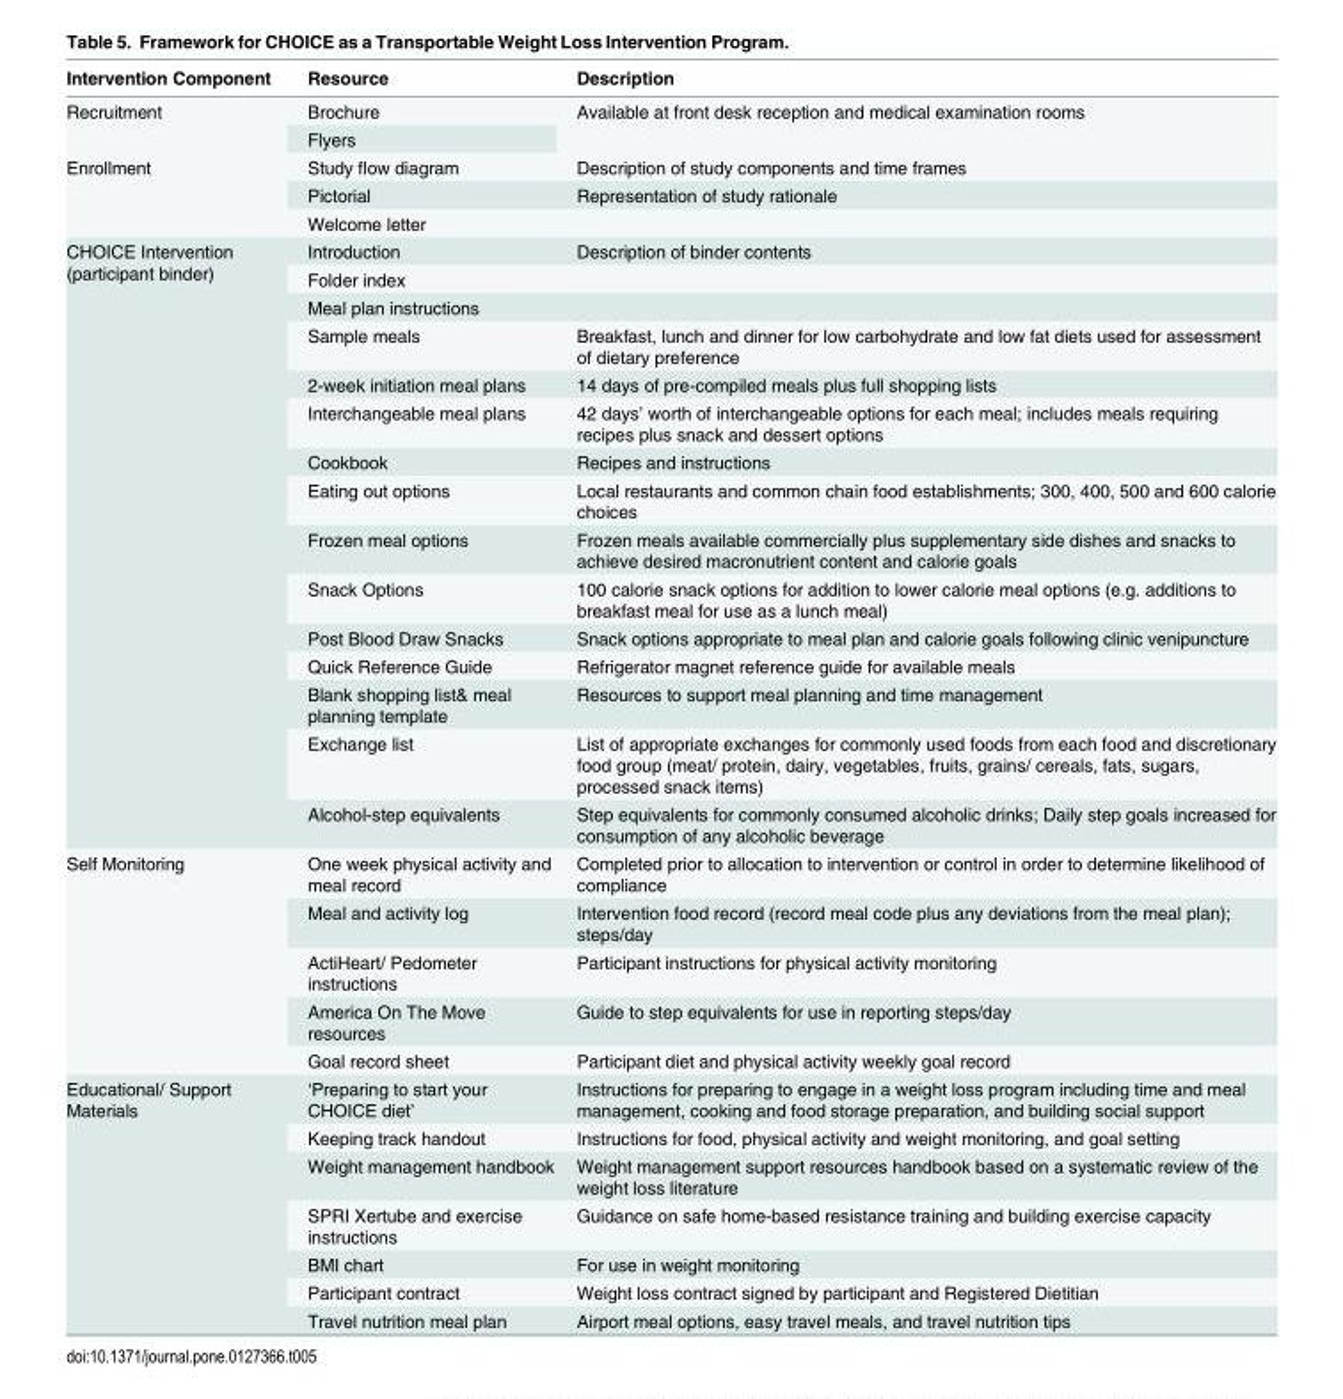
<table><thead><tr><td>Intervention Component</td><td>Resource</td><td>Description</td></tr></thead><tbody><tr><td rowspan="2">Recruitment</td><td>Brochure</td><td rowspan="2">Available at front desk reception and medical examination rooms</td></tr><tr><td>Flyers</td></tr><tr><td rowspan="3">Enrollment</td><td>Study flow diagram</td><td>Description of study components and time frames</td></tr><tr><td>Pictorial</td><td>Representation of study rationale</td></tr><tr><td>Welcome letter</td><td></td></tr><tr><td rowspan="15">CHOICE Intervention (participant binder)</td><td>Introduction</td><td>Description of binder contents</td></tr><tr><td>Folder index</td><td></td></tr><tr><td>Meal plan instructions</td><td></td></tr><tr><td>Sample meals</td><td>Breakfast, lunch and dinner for low carbohydrate and low fat diets used for assessment of dietary preference</td></tr><tr><td>2-week initiation meal plans</td><td>14 days of pre-compiled meals plus full shopping lists</td></tr><tr><td>Interchangeable meal plans</td><td>42 days’ worth of interchangeable options for each meal; includes meals requiring recipes plus snack and dessert options</td></tr><tr><td>Cookbook</td><td>Recipes and instructions</td></tr><tr><td>Eating out options</td><td>Local restaurants and common chain food establishments; 300, 400, 500 and 600 calorie choices</td></tr><tr><td>Frozen meal options</td><td>Frozen meals available commercially plus supplementary side dishes and snacks to achieve desired macronutrient content and calorie goals</td></tr><tr><td>Snack Options</td><td>100 calorie snack options for addition to lower calorie meal options (e.g. additions to breakfast meal for use as a lunch meal)</td></tr><tr><td>Post Blood Draw Snacks</td><td>Snack options appropriate to meal plan and calorie goals following clinic venipuncture</td></tr><tr><td>Quick Reference Guide</td><td>Refrigerator magnet reference guide for available meals</td></tr><tr><td>Blank shopping list&amp; meal planning template</td><td>Resources to support meal planning and time management</td></tr><tr><td>Exchange list</td><td>List of appropriate exchanges for commonly used foods from each food and discretionary food group (meat/ protein, dairy, vegetables, fruits, grains/ cereals, fats, sugars, processed snack items)</td></tr><tr><td>Alcohol-step equivalents</td><td>Step equivalents for commonly consumed alcoholic drinks; Daily step goals increased for consumption of any alcoholic beverage</td></tr><tr><td rowspan="5">Self Monitoring</td><td>One week physical activity and meal record</td><td>Completed prior to allocation to intervention or control in order to determine likelihood of compliance</td></tr><tr><td>Meal and activity log</td><td>Intervention food record (record meal code plus any deviations from the meal plan); steps/day</td></tr><tr><td>ActiHeart/ Pedometer instructions</td><td>Participant instructions for physical activity monitoring</td></tr><tr><td>America On The Move resources</td><td>Guide to step equivalents for use in reporting steps/day</td></tr><tr><td>Goal record sheet</td><td>Participant diet and physical activity weekly goal record</td></tr><tr><td rowspan="7">Educational/ Support Materials</td><td>‘Preparing to start your CHOICE diet’</td><td>Instructions for preparing to engage in a weight loss program including time and meal management, cooking and food storage preparation, and building social support</td></tr><tr><td>Keeping track handout</td><td>Instructions for food, physical activity and weight monitoring, and goal setting</td></tr><tr><td>Weight management handbook</td><td>Weight management support resources handbook based on a systematic review of the weight loss literature</td></tr><tr><td>SPRI Xertube and exercise instructions</td><td>Guidance on safe home-based resistance training and building exercise capacity</td></tr><tr><td>BMI chart</td><td>For use in weight monitoring</td></tr><tr><td>Participant contract</td><td>Weight loss contract signed by participant and Registered Dietitian</td></tr><tr><td>Travel nutrition meal plan</td><td>Airport meal options, easy travel meals, and travel nutrition tips</td></tr></tbody></table>